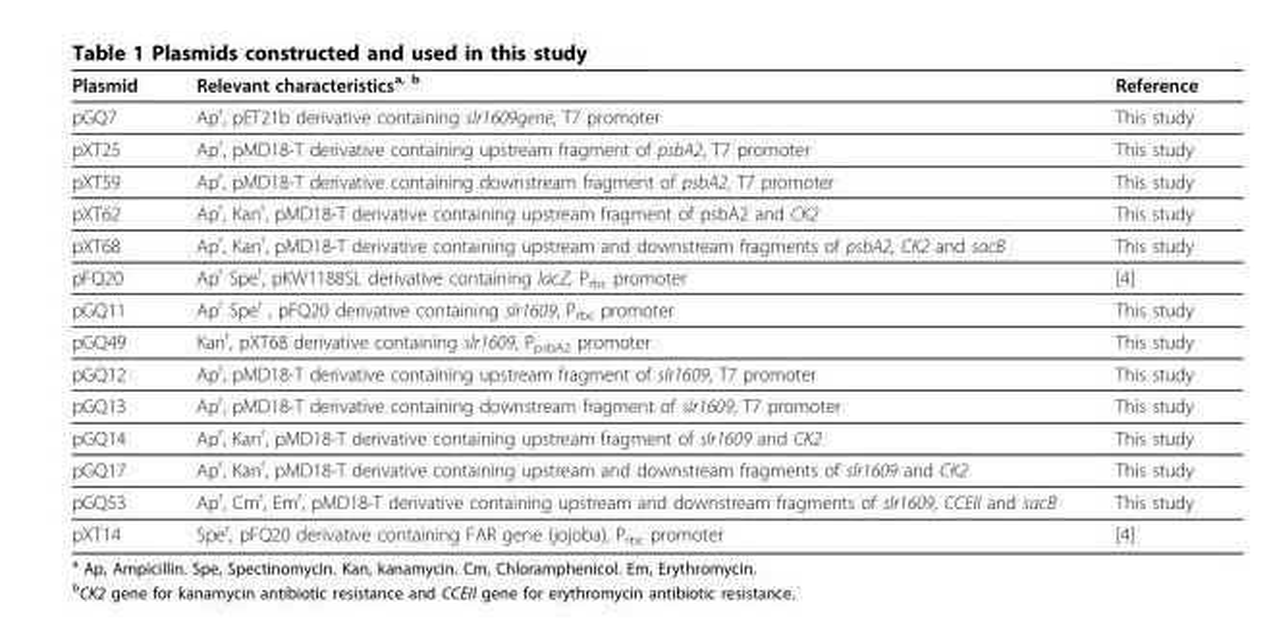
<table><thead><tr><td>Plasmid</td><td>Relevant characteristics<sup>a, b</sup></td><td>Reference</td></tr></thead><tbody><tr><td>pGQ7</td><td>Ap<sup>r</sup>, pET21b derivative containing slr1609gene, T7 promoter</td><td>This study</td></tr><tr><td>pXT25</td><td>Ap<sup>r</sup>, pMD18-T derivative containing upstream fragment of psbA2, T7 promoter</td><td>This study</td></tr><tr><td>pXT59</td><td>Ap<sup>r</sup>, pMD18-T derivative containing downstream fragment of psbA2, T7 promoter</td><td>This study</td></tr><tr><td>pXT62</td><td>Ap<sup>r</sup>, Kan<sup>r</sup>, pMD18-T derivative containing upstream fragment of psbA2 and CK2</td><td>This study</td></tr><tr><td>pXT68</td><td>Ap<sup>r</sup>, Kan<sup>r</sup>, pMD18-T derivative containing upstream and downstream fragments of psbA2, CK2 and sacB</td><td>This study</td></tr><tr><td>pFQ20</td><td>Ap<sup>r</sup> Spe<sup>r</sup>, pKW1188SL derivative containing lacZ, P<sub>rbc</sub> promoter</td><td>[4]</td></tr><tr><td>pGQ11</td><td>Ap<sup>r</sup> Spe<sup>r</sup> , pFQ20 derivative containing slr1609, P<sub>rbc</sub> promoter</td><td>This study</td></tr><tr><td>pGQ49</td><td>Kan<sup>r</sup>, pXT68 derivative containing slr1609, P<sub>psbA2</sub> promoter</td><td>This study</td></tr><tr><td>pGQ12</td><td>Ap<sup>r</sup>, pMD18-T derivative containing upstream fragment of slr1609, T7 promoter</td><td>This study</td></tr><tr><td>pGQ13</td><td>Ap<sup>r</sup>, pMD18-T derivative containing downstream fragment of slr1609, T7 promoter</td><td>This study</td></tr><tr><td>pGQ14</td><td>Ap<sup>r</sup>, Kan<sup>r</sup>, pMD18-T derivative containing upstream fragment of slr1609 and CK2</td><td>This study</td></tr><tr><td>pGQ17</td><td>Ap<sup>r</sup>, Kan<sup>r</sup>, pMD18-T derivative containing upstream and downstream fragments of slr1609 and CK2</td><td>This study</td></tr><tr><td>pGQ53</td><td>Ap<sup>r</sup>, Cm<sup>r</sup>, Em<sup>r</sup>, pMD18-T derivative containing upstream and downstream fragments of slr1609, CCEII and sacB</td><td>This study</td></tr><tr><td>pXT14</td><td>Spe<sup>r</sup>, pFQ20 derivative containing FAR gene (jojoba), P<sub>rbc</sub> promoter</td><td>[4]</td></tr></tbody></table>